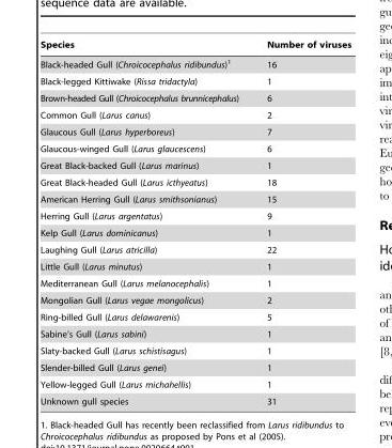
<table><thead><tr><td>Species</td><td>Number of viruses</td></tr></thead><tbody><tr><td>Black-headed Gull (Chroicocephalus ridibundus)<sup>1</sup></td><td>16</td></tr><tr><td>Black-legged Kittiwake (Rissa tridactyla)</td><td>1</td></tr><tr><td>Brown-headed Gull (Chroicocephalus brunnicephalus)</td><td>6</td></tr><tr><td>Common Gull (Larus canus)</td><td>2</td></tr><tr><td>Glaucous Gull (Larus hyperboreus)</td><td>7</td></tr><tr><td>Glaucous-winged Gull (Larus glaucescens)</td><td>6</td></tr><tr><td>Great Black-backed Gull (Larus marinus)</td><td>1</td></tr><tr><td>Great Black-headed Gull (Larus icthyeatus)</td><td>18</td></tr><tr><td>American Herring Gull (Larus smithsonianus)</td><td>15</td></tr><tr><td>Herring Gull (Larus argentatus)</td><td>9</td></tr><tr><td>Kelp Gull (Larus dominicanus)</td><td>1</td></tr><tr><td>Laughing Gull (Larus atricilla)</td><td>22</td></tr><tr><td>Little Gull (Larus minutus)</td><td>1</td></tr><tr><td>Mediterranean Gull (Larus melanocephalis)</td><td>1</td></tr><tr><td>Mongolian Gull (Larus vegae mongolicus)</td><td>2</td></tr><tr><td>Ring-billed Gull (Larus delawarenis)</td><td>5</td></tr><tr><td>Sabine’s Gull (Larus sabini)</td><td>1</td></tr><tr><td>Slaty-backed Gull (Larus schistisagus)</td><td>1</td></tr><tr><td>Slender-billed Gull (Larus genei)</td><td>1</td></tr><tr><td>Yellow-legged Gull (Larus michahellis)</td><td>1</td></tr><tr><td>Unknown gull species</td><td>31</td></tr></tbody></table>